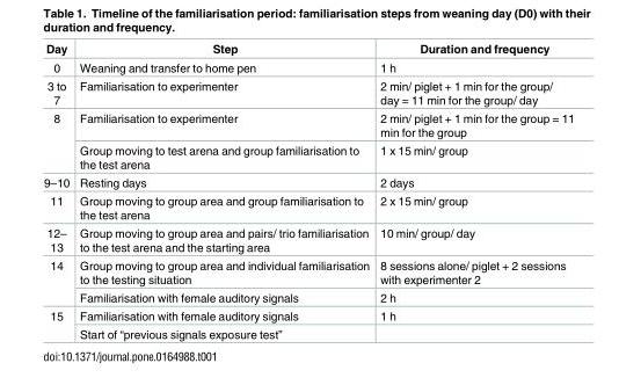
<table><thead><tr><td>Day</td><td>Step</td><td>Duration and frequency</td></tr></thead><tbody><tr><td>0</td><td>Weaning and transfer to home pen</td><td>1 h</td></tr><tr><td>3 to 7</td><td>Familiarisation to experimenter</td><td>2 min/ piglet + 1 min for the group/ day = 11 min for the group/ day</td></tr><tr><td rowspan="2">8</td><td>Familiarisation to experimenter</td><td>2 min/ piglet + 1 min for the group = 11 min for the group</td></tr><tr><td>Group moving to test arena and group familiarisation to the test arena</td><td>1 x 15 min/ group</td></tr><tr><td>9–10</td><td>Resting days</td><td>2 days</td></tr><tr><td>11</td><td>Group moving to group area and group familiarisation to the test arena</td><td>2 x 15 min/ group</td></tr><tr><td>12– 13</td><td>Group moving to group area and pairs/ trio familiarisation to the test arena and the starting area</td><td>10 min/ group/ day</td></tr><tr><td rowspan="2">14</td><td>Group moving to group area and individual familiarisation to the testing situation</td><td>8 sessions alone/ piglet + 2 sessions with experimenter 2</td></tr><tr><td>Familiarisation with female auditory signals</td><td>2 h</td></tr><tr><td rowspan="2">15</td><td>Familiarisation with female auditory signals</td><td>1 h</td></tr><tr><td>Start of “previous signals exposure test”</td><td></td></tr></tbody></table>